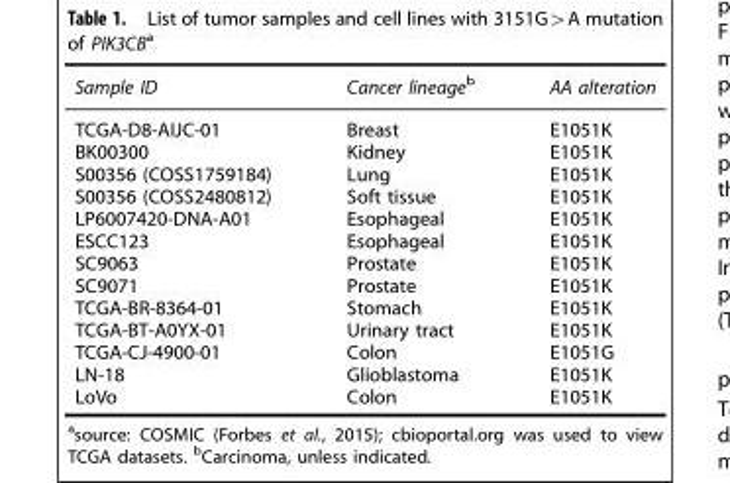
<table><thead><tr><td>Sample ID</td><td>Cancer lineage<sup>b</sup></td><td>AA alteration</td></tr></thead><tbody><tr><td>TCGA-D8-AIJC-01</td><td>Breast</td><td>E1051K</td></tr><tr><td>BK00300</td><td>Kidney</td><td>E1051K</td></tr><tr><td>S00356 (COSS1759184)</td><td>Lung</td><td>E1051K</td></tr><tr><td>S00356 (COSS2480812)</td><td>Soft tissue</td><td>E1051K</td></tr><tr><td>LP6007420-DNA-A01</td><td>Esophageal</td><td>E1051K</td></tr><tr><td>ESCC123</td><td>Esophageal</td><td>E1051K</td></tr><tr><td>SC9063</td><td>Prostate</td><td>E1051K</td></tr><tr><td>SC9071</td><td>Prostate</td><td>E1051K</td></tr><tr><td>TCGA-BR-8364-01</td><td>Stomach</td><td>E1051K</td></tr><tr><td>TCGA-BT-A0YX-01</td><td>Urinary tract</td><td>E1051K</td></tr><tr><td>TCGA-CJ-4900-01</td><td>Colon</td><td>E1051G</td></tr><tr><td>LN-18</td><td>Glioblastoma</td><td>E1051K</td></tr><tr><td>LoVo</td><td>Colon</td><td>E1051K</td></tr></tbody></table>